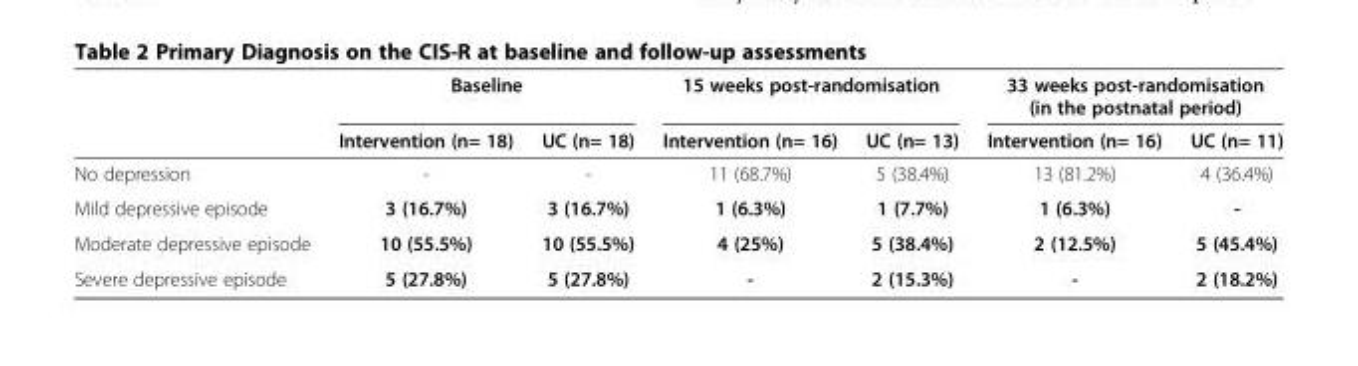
<table><thead><tr><td rowspan="2"></td><td colspan="2">Baseline</td><td colspan="2">15 weeks post-randomisation</td><td colspan="2">33 weeks post-randomisation (in the postnatal period)</td></tr><tr><td>Intervention (n= 18)</td><td>UC (n= 18)</td><td>Intervention (n= 16)</td><td>UC (n= 13)</td><td>Intervention (n= 16)</td><td>UC (n= 11)</td></tr></thead><tbody><tr><td>No depression</td><td>-</td><td>-</td><td>11 (68.7%)</td><td>5 (38.4%)</td><td>13 (81.2%)</td><td>4 (36.4%)</td></tr><tr><td>Mild depressive episode</td><td>3 (16.7%)</td><td>3 (16.7%)</td><td>1 (6.3%)</td><td>1 (7.7%)</td><td>1 (6.3%)</td><td>-</td></tr><tr><td>Moderate depressive episode</td><td>10 (55.5%)</td><td>10 (55.5%)</td><td>4 (25%)</td><td>5 (38.4%)</td><td>2 (12.5%)</td><td>5 (45.4%)</td></tr><tr><td>Severe depressive episode</td><td>5 (27.8%)</td><td>5 (27.8%)</td><td>-</td><td>2 (15.3%)</td><td>-</td><td>2 (18.2%)</td></tr></tbody></table>